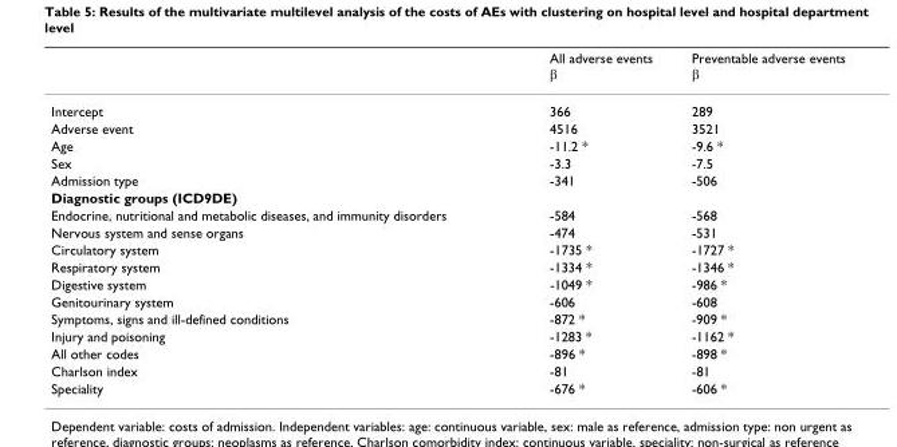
<table><thead><tr><td></td><td>All adverse events β</td><td>Preventable adverse events β</td></tr></thead><tbody><tr><td>Intercept</td><td>366</td><td>289</td></tr><tr><td>Adverse event</td><td>4516</td><td>3521</td></tr><tr><td>Age</td><td>-11.2 *</td><td>-9.6 *</td></tr><tr><td>Sex</td><td>-3.3</td><td>-7.5</td></tr><tr><td>Admission type</td><td>-341</td><td>-506</td></tr><tr><td colspan="3">Diagnostic groups (ICD9DE)</td></tr><tr><td>Endocrine, nutritional and metabolic diseases, and immunity disorders</td><td>-584</td><td>-568</td></tr><tr><td>Nervous system and sense organs</td><td>-474</td><td>-531</td></tr><tr><td>Circulatory system</td><td>-1735 *</td><td>-1727 *</td></tr><tr><td>Respiratory system</td><td>-1334 *</td><td>-1346 *</td></tr><tr><td>Digestive system</td><td>-1049 *</td><td>-986 *</td></tr><tr><td>Genitourinary system</td><td>-606</td><td>-608</td></tr><tr><td>Symptoms, signs and ill-defined conditions</td><td>-872 *</td><td>-909 *</td></tr><tr><td>Injury and poisoning</td><td>-1283 *</td><td>-1162 *</td></tr><tr><td>All other codes</td><td>-896 *</td><td>-898 *</td></tr><tr><td>Charlson index</td><td>-81</td><td>-81</td></tr><tr><td>Speciality</td><td>-676 *</td><td>-606 *</td></tr></tbody></table>